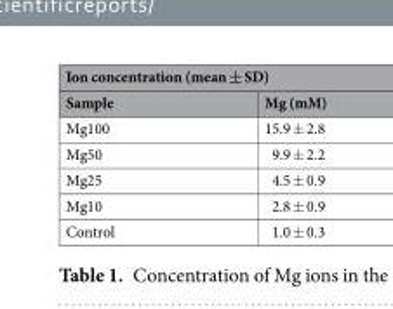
<table><thead><tr><td colspan="2">Ion concentration (mean ± SD)</td></tr><tr><td>Sample</td><td>Mg (mM)</td></tr></thead><tbody><tr><td>Mg100</td><td>15.9 ± 2.8</td></tr><tr><td>Mg50</td><td>9.9 ± 2.2</td></tr><tr><td>Mg25</td><td>4.5 ± 0.9</td></tr><tr><td>Mg10</td><td>2.8 ± 0.9</td></tr><tr><td>Control</td><td>1.0 ± 0.3</td></tr></tbody></table>